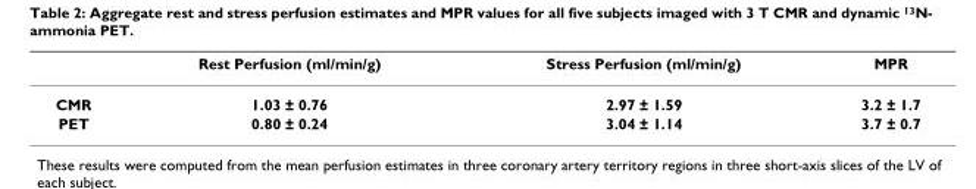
<table><thead><tr><td></td><td>Rest Perfusion (ml/min/g)</td><td>Stress Perfusion (ml/min/g)</td><td>MPR</td></tr></thead><tbody><tr><td>CMR</td><td>1.03 ± 0.76</td><td>2.97 ± 1.59</td><td>3.2 ± 1.7</td></tr><tr><td>PET</td><td>0.80 ± 0.24</td><td>3.04 ± 1.14</td><td>3.7 ± 0.7</td></tr></tbody></table>